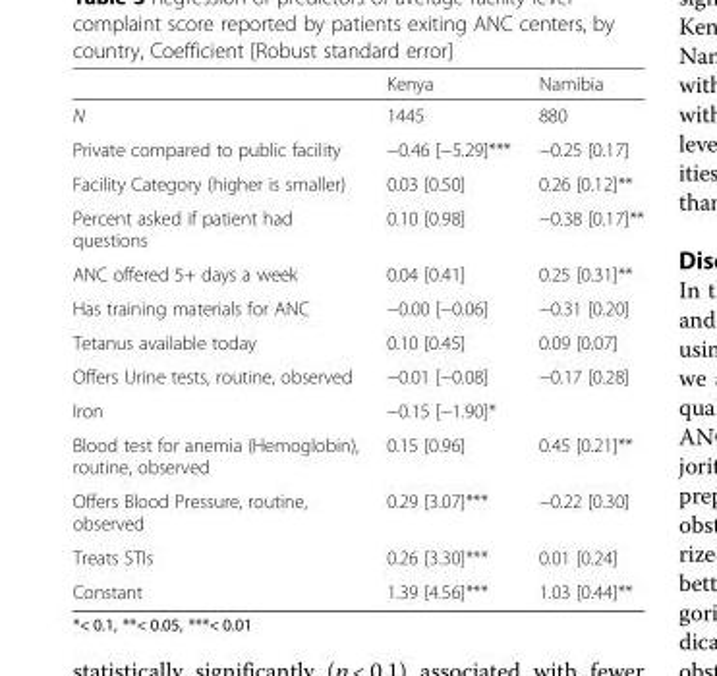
<table><thead><tr><td></td><td>Kenya</td><td>Namibia</td></tr></thead><tbody><tr><td>N</td><td>1445</td><td>880</td></tr><tr><td>Private compared to public facility</td><td>−0.46 [−5.29]***</td><td>−0.25 [0.17]</td></tr><tr><td>Facility Category (higher is smaller)</td><td>0.03 [0.50]</td><td>0.26 [0.12]**</td></tr><tr><td>Percent asked if patient had questions</td><td>0.10 [0.98]</td><td>−0.38 [0.17]**</td></tr><tr><td>ANC offered 5+ days a week</td><td>0.04 [0.41]</td><td>0.25 [0.31]**</td></tr><tr><td>Has training materials for ANC</td><td>−0.00 [−0.06]</td><td>−0.31 [0.20]</td></tr><tr><td>Tetanus available today</td><td>0.10 [0.45]</td><td>0.09 [0.07]</td></tr><tr><td>Offers Urine tests, routine, observed</td><td>−0.01 [−0.08]</td><td>−0.17 [0.28]</td></tr><tr><td>Iron</td><td>−0.15 [−1.90]*</td><td></td></tr><tr><td>Blood test for anemia (Hemoglobin), routine, observed</td><td>0.15 [0.96]</td><td>0.45 [0.21]**</td></tr><tr><td>Offers Blood Pressure, routine, observed</td><td>0.29 [3.07]***</td><td>−0.22 [0.30]</td></tr><tr><td>Treats STIs</td><td>0.26 [3.30]***</td><td>0.01 [0.24]</td></tr><tr><td>Constant</td><td>1.39 [4.56]***</td><td>1.03 [0.44]**</td></tr></tbody></table>